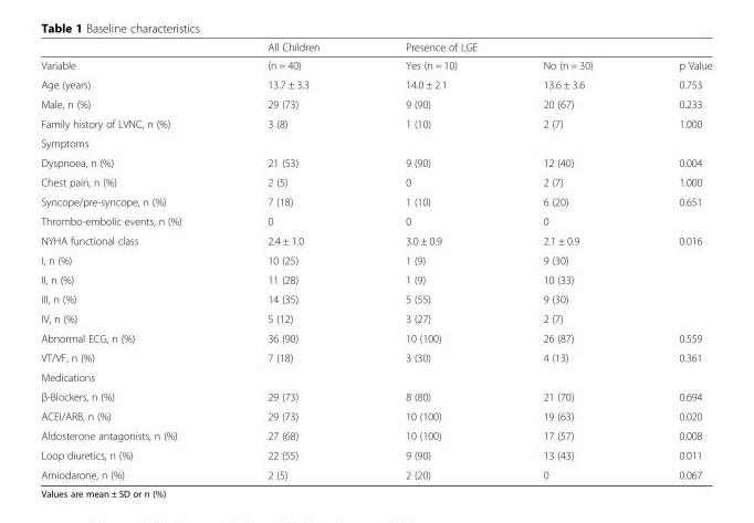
<table><thead><tr><td rowspan="2">Variable</td><td rowspan="2">All Children (n = 40)</td><td colspan="2">Presence of LGE</td><td rowspan="2">p Value</td></tr><tr><td>Yes (n = 10)</td><td>No (n = 30)</td></tr></thead><tbody><tr><td>Age (years)</td><td>13.7 ± 3.3</td><td>14.0 ± 2.1</td><td>13.6 ± 3.6</td><td>0.753</td></tr><tr><td>Male, n (%)</td><td>29 (73)</td><td>9 (90)</td><td>20 (67)</td><td>0.233</td></tr><tr><td>Family history of LVNC, n (%)</td><td>3 (8)</td><td>1 (10)</td><td>2 (7)</td><td>1.000</td></tr><tr><td colspan="5">Symptoms</td></tr><tr><td>Dyspnoea, n (%)</td><td>21 (53)</td><td>9 (90)</td><td>12 (40)</td><td>0.004</td></tr><tr><td>Chest pain, n (%)</td><td>2 (5)</td><td>0</td><td>2 (7)</td><td>1.000</td></tr><tr><td>Syncope/pre-syncope, n (%)</td><td>7 (18)</td><td>1 (10)</td><td>6 (20)</td><td>0.651</td></tr><tr><td>Thrombo-embolic events, n (%)</td><td>0</td><td>0</td><td>0</td><td></td></tr><tr><td>NYHA functional class</td><td>2.4 ± 1.0</td><td>3.0 ± 0.9</td><td>2.1 ± 0.9</td><td>0.016</td></tr><tr><td>I, n (%)</td><td>10 (25)</td><td>1 (9)</td><td>9 (30)</td><td></td></tr><tr><td>II, n (%)</td><td>11 (28)</td><td>1 (9)</td><td>10 (33)</td><td></td></tr><tr><td>III, n (%)</td><td>14 (35)</td><td>5 (55)</td><td>9 (30)</td><td></td></tr><tr><td>IV, n (%)</td><td>5 (12)</td><td>3 (27)</td><td>2 (7)</td><td></td></tr><tr><td>Abnormal ECG, n (%)</td><td>36 (90)</td><td>10 (100)</td><td>26 (87)</td><td>0.559</td></tr><tr><td>VT/VF, n (%)</td><td>7 (18)</td><td>3 (30)</td><td>4 (13)</td><td>0.361</td></tr><tr><td colspan="5">Medications</td></tr><tr><td>β-Blockers, n (%)</td><td>29 (73)</td><td>8 (80)</td><td>21 (70)</td><td>0.694</td></tr><tr><td>ACEI/ARB, n (%)</td><td>29 (73)</td><td>10 (100)</td><td>19 (63)</td><td>0.020</td></tr><tr><td>Aldosterone antagonists, n (%)</td><td>27 (68)</td><td>10 (100)</td><td>17 (57)</td><td>0.008</td></tr><tr><td>Loop diuretics, n (%)</td><td>22 (55)</td><td>9 (90)</td><td>13 (43)</td><td>0.011</td></tr><tr><td>Amiodarone, n (%)</td><td>2 (5)</td><td>2 (20)</td><td>0</td><td>0.067</td></tr></tbody></table>